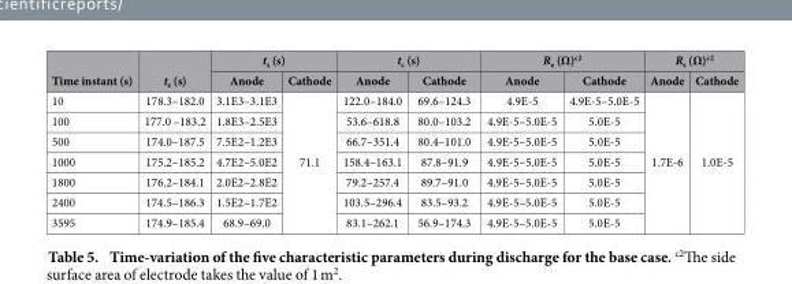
<table><thead><tr><td rowspan="2">Time instant (s)</td><td rowspan="2">t<sub>e</sub> (s)</td><td colspan="2">t<sub>s</sub> (s)</td><td colspan="2">t<sub>c</sub> (s)</td><td colspan="2">R<sub>e</sub> (Ω)c2</td><td colspan="2">R<sub>s</sub> (Ω)c2</td></tr><tr><td>Anode</td><td>Cathode</td><td>Anode</td><td>Cathode</td><td>Anode</td><td>Cathode</td><td>Anode</td><td>Cathode</td></tr></thead><tbody><tr><td>10</td><td>178.3–182.0</td><td>3.1E3–3.1E3</td><td rowspan="7">71.1</td><td>122.0–184.0</td><td>69.6–124.3</td><td>4.9E-5</td><td>4.9E-5–5.0E-5</td><td rowspan="7">1.7E-6</td><td rowspan="7">1.0E-5</td></tr><tr><td>100</td><td>177.0 –183.2</td><td>1.8E3–2.5E3</td><td>53.6–618.8</td><td>80.0–103.2</td><td>4.9E-5–5.0E-5</td><td>5.0E-5</td></tr><tr><td>500</td><td>174.0–187.5</td><td>7.5E2–1.2E3</td><td>66.7–351.4</td><td>80.4–101.0</td><td>4.9E-5–5.0E-5</td><td>5.0E-5</td></tr><tr><td>1000</td><td>175.2–185.2</td><td>4.7E2–5.0E2</td><td>158.4–163.1</td><td>87.8–91.9</td><td>4.9E-5–5.0E-5</td><td>5.0E-5</td></tr><tr><td>1800</td><td>176.2–184.1</td><td>2.0E2–2.8E2</td><td>79.2–257.4</td><td>89.7–91.0</td><td>4.9E-5–5.0E-5</td><td>5.0E-5</td></tr><tr><td>2400</td><td>174.5–186.3</td><td>1.5E2–1.7E2</td><td>103.5–296.4</td><td>83.5–93.2</td><td>4.9E-5–5.0E-5</td><td>5.0E-5</td></tr><tr><td>3595</td><td>174.9–185.4</td><td>68.9–69.0</td><td>83.1–262.1</td><td>56.9–174.3</td><td>4.9E-5–5.0E-5</td><td>5.0E-5</td></tr></tbody></table>